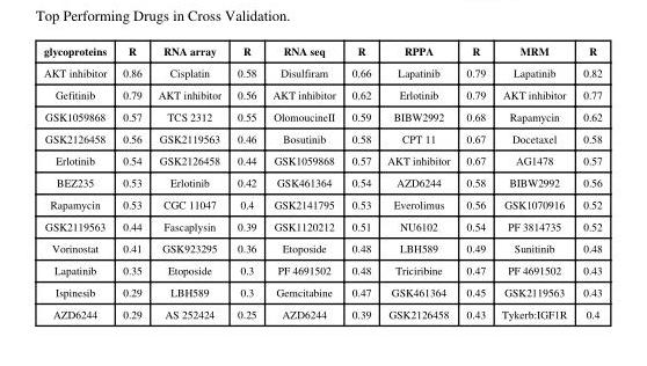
<table><thead><tr><td>glycoproteins</td><td>R</td><td>RNA array</td><td>R</td><td>RNA seq</td><td>R</td><td>RPPA</td><td>R</td><td>MRM</td><td>R</td></tr></thead><tbody><tr><td>AKT inhibitor</td><td>0.86</td><td>Cisplatin</td><td>0.58</td><td>Disulfiram</td><td>0.66</td><td>Lapatinib</td><td>0.79</td><td>Lapatinib</td><td>0.82</td></tr><tr><td>Gefitinib</td><td>0.79</td><td>AKT inhibitor</td><td>0.56</td><td>AKT inhibitor</td><td>0.62</td><td>Erlotinib</td><td>0.79</td><td>AKT inhibitor</td><td>0.77</td></tr><tr><td>GSK1059868</td><td>0.57</td><td>TCS 2312</td><td>0.55</td><td>OlomoucineII</td><td>0.59</td><td>BIBW2992</td><td>0.68</td><td>Rapamycin</td><td>0.62</td></tr><tr><td>GSK2126458</td><td>0.56</td><td>GSK2119563</td><td>0.46</td><td>Bosutinib</td><td>0.58</td><td>CPT 11</td><td>0.67</td><td>Docetaxel</td><td>0.58</td></tr><tr><td>Erlotinib</td><td>0.54</td><td>GSK2126458</td><td>0.44</td><td>GSK1059868</td><td>0.57</td><td>AKT inhibitor</td><td>0.67</td><td>AG1478</td><td>0.57</td></tr><tr><td>BEZ235</td><td>0.53</td><td>Erlotinib</td><td>0.42</td><td>GSK461364</td><td>0.54</td><td>AZD6244</td><td>0.58</td><td>BIBW2992</td><td>0.56</td></tr><tr><td>Rapamycin</td><td>0.53</td><td>CGC 11047</td><td>0.4</td><td>GSK2141795</td><td>0.53</td><td>Everolimus</td><td>0.56</td><td>GSK1070916</td><td>0.52</td></tr><tr><td>GSK2119563</td><td>0.44</td><td>Fascaplysin</td><td>0.39</td><td>GSK1120212</td><td>0.51</td><td>NU6102</td><td>0.54</td><td>PF 3814735</td><td>0.52</td></tr><tr><td>Vorinostat</td><td>0.41</td><td>GSK923295</td><td>0.36</td><td>Etoposide</td><td>0.48</td><td>LBH589</td><td>0.49</td><td>Sunitinib</td><td>0.48</td></tr><tr><td>Lapatinib</td><td>0.35</td><td>Etoposide</td><td>0.3</td><td>PF 4691502</td><td>0.48</td><td>Triciribine</td><td>0.47</td><td>PF 4691502</td><td>0.43</td></tr><tr><td>Ispinesib</td><td>0.29</td><td>LBH589</td><td>0.3</td><td>Gemcitabine</td><td>0.47</td><td>GSK461364</td><td>0.45</td><td>GSK2119563</td><td>0.43</td></tr><tr><td>AZD6244</td><td>0.29</td><td>AS 252424</td><td>0.25</td><td>AZD6244</td><td>0.39</td><td>GSK2126458</td><td>0.43</td><td>Tykerb:IGF1R</td><td>0.4</td></tr></tbody></table>